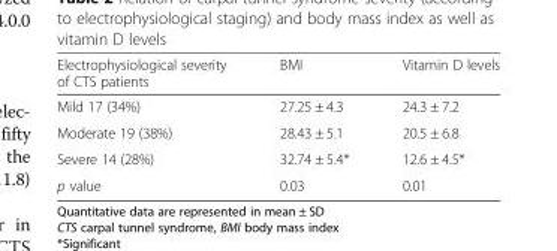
<table><thead><tr><td>Electrophysiological severity of CTS patients</td><td>BMI</td><td>Vitamin D levels</td></tr></thead><tbody><tr><td>Mild 17 (34%)</td><td>27.25 ± 4.3</td><td>24.3 ± 7.2</td></tr><tr><td>Moderate 19 (38%)</td><td>28.43 ± 5.1</td><td>20.5 ± 6.8</td></tr><tr><td>Severe 14 (28%)</td><td>32.74 ± 5.4*</td><td>12.6 ± 4.5*</td></tr><tr><td>p value</td><td>0.03</td><td>0.01</td></tr></tbody></table>